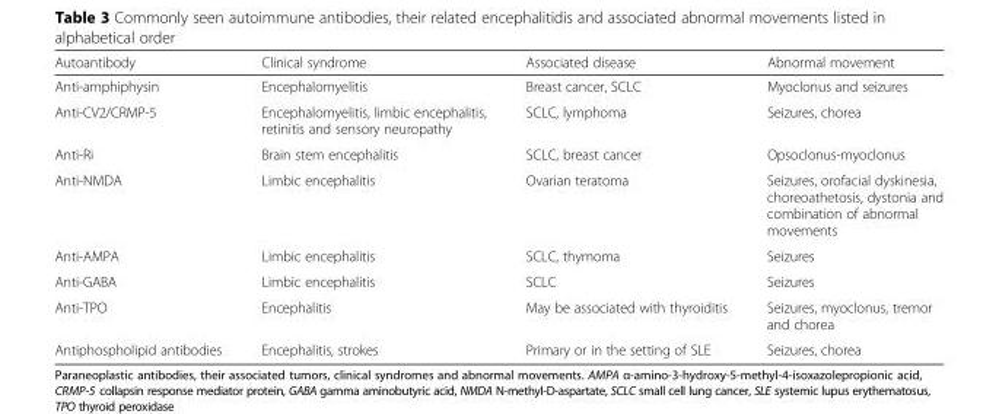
<table><thead><tr><td>Autoantibody</td><td>Clinical syndrome</td><td>Associated disease</td><td>Abnormal movement</td></tr></thead><tbody><tr><td>Anti-amphiphysin</td><td>Encephalomyelitis</td><td>Breast cancer, SCLC</td><td>Myoclonus and seizures</td></tr><tr><td>Anti-CV2/CRMP-5</td><td>Encephalomyelitis, limbic encephalitis, retinitis and sensory neuropathy</td><td>SCLC, lymphoma</td><td>Seizures, chorea</td></tr><tr><td>Anti-Ri</td><td>Brain stem encephalitis</td><td>SCLC, breast cancer</td><td>Opsoclonus-myoclonus</td></tr><tr><td>Anti-NMDA</td><td>Limbic encephalitis</td><td>Ovarian teratoma</td><td>Seizures, orofacial dyskinesia, choreoathetosis, dystonia and combination of abnormal movements</td></tr><tr><td>Anti-AMPA</td><td>Limbic encephalitis</td><td>SCLC, thymoma</td><td>Seizures</td></tr><tr><td>Anti-GABA</td><td>Limbic encephalitis</td><td>SCLC</td><td>Seizures</td></tr><tr><td>Anti-TPO</td><td>Encephalitis</td><td>May be associated with thyroiditis</td><td>Seizures, myoclonus, tremor and chorea</td></tr><tr><td>Antiphospholipid antibodies</td><td>Encephalitis, strokes</td><td>Primary or in the setting of SLE</td><td>Seizures, chorea</td></tr></tbody></table>